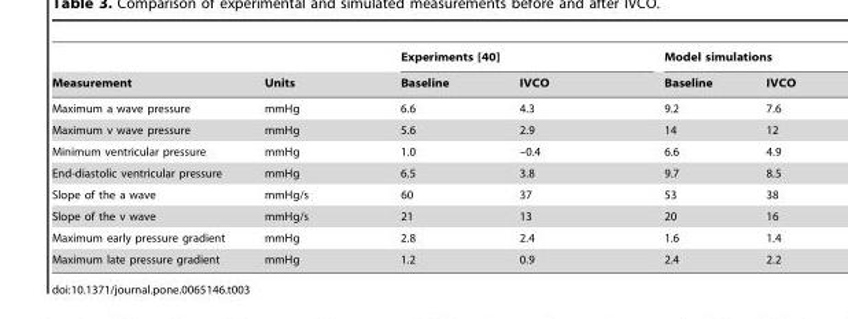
<table><thead><tr><td rowspan="2">Measurement</td><td rowspan="2">Units</td><td colspan="2">Experiments [40]</td><td colspan="2">Model simulations</td></tr><tr><td>Baseline</td><td>IVCO</td><td>Baseline</td><td>IVCO</td></tr></thead><tbody><tr><td>Maximum a wave pressure</td><td>mmHg</td><td>6.6</td><td>4.3</td><td>9.2</td><td>7.6</td></tr><tr><td>Maximum v wave pressure</td><td>mmHg</td><td>5.6</td><td>2.9</td><td>14</td><td>12</td></tr><tr><td>Minimum ventricular pressure</td><td>mmHg</td><td>1.0</td><td>–0.4</td><td>6.6</td><td>4.9</td></tr><tr><td>End-diastolic ventricular pressure</td><td>mmHg</td><td>6.5</td><td>3.8</td><td>9.7</td><td>8.5</td></tr><tr><td>Slope of the a wave</td><td>mmHg/s</td><td>60</td><td>37</td><td>53</td><td>38</td></tr><tr><td>Slope of the v wave</td><td>mmHg/s</td><td>21</td><td>13</td><td>20</td><td>16</td></tr><tr><td>Maximum early pressure gradient</td><td>mmHg</td><td>2.8</td><td>2.4</td><td>1.6</td><td>1.4</td></tr><tr><td>Maximum late pressure gradient</td><td>mmHg</td><td>1.2</td><td>0.9</td><td>2.4</td><td>2.2</td></tr></tbody></table>